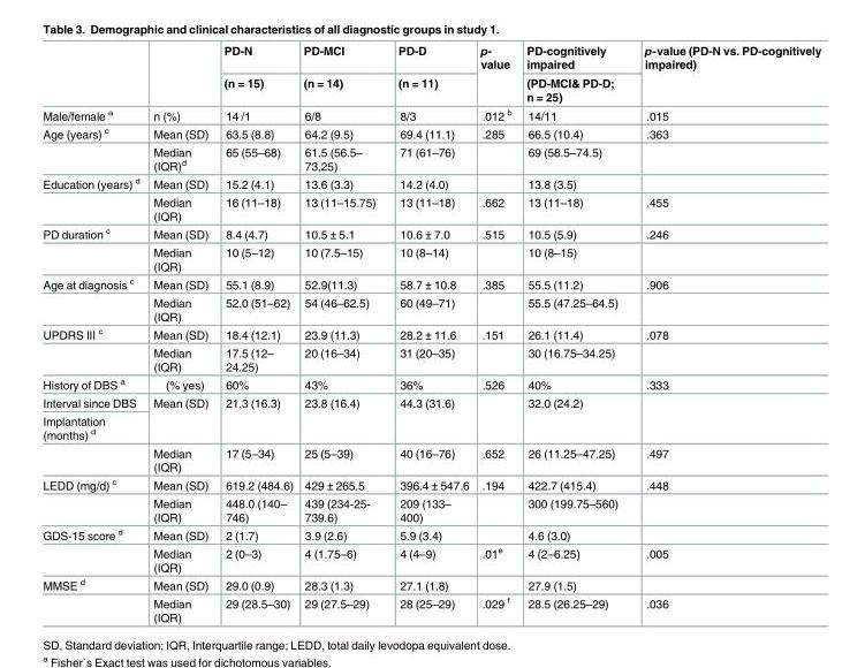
<table><thead><tr><td rowspan="2"></td><td rowspan="2"></td><td rowspan="2">PD-N (n = 15)</td><td rowspan="2">PD-MCI (n = 14)</td><td rowspan="2">PD-D (n = 11)</td><td rowspan="2">p- value</td><td rowspan="2">PD-cognitively impaired (PD-MCI&amp; PD-D; n = 25)</td><td rowspan="2">p-value (PD-N vs. PD-cognitively impaired)</td></tr><tr></tr></thead><tbody><tr><td>Male/female <sup>a</sup></td><td>n (%)</td><td>14 /1</td><td>6/8</td><td>8/3</td><td>.012 <sup>b</sup></td><td>14/11</td><td>.015</td></tr><tr><td rowspan="2">Age (years) <sup>c</sup></td><td>Mean (SD)</td><td>63.5 (8.8)</td><td>64.2 (9.5)</td><td>69.4 (11.1)</td><td>.285</td><td>66.5 (10.4)</td><td>.363</td></tr><tr><td>Median (IQR)<sup>d</sup></td><td>65 (55–68)</td><td>61.5 (56.5– 73,25)</td><td>71 (61–76)</td><td></td><td>69 (58.5–74.5)</td><td></td></tr><tr><td rowspan="2">Education (years) <sup>d</sup></td><td>Mean (SD)</td><td>15.2 (4.1)</td><td>13.6 (3.3)</td><td>14.2 (4.0)</td><td></td><td>13.8 (3.5)</td><td></td></tr><tr><td>Median (IQR)</td><td>16 (11–18)</td><td>13 (11–15.75)</td><td>13 (11–18)</td><td>.662</td><td>13 (11–18)</td><td>.455</td></tr><tr><td rowspan="2">PD duration <sup>c</sup></td><td>Mean (SD)</td><td>8.4 (4.7)</td><td>10.5 ± 5.1</td><td>10.6 ± 7.0</td><td>.515</td><td>10.5 (5.9)</td><td>.246</td></tr><tr><td>Median (IQR)</td><td>10 (5–12)</td><td>10 (7.5–15)</td><td>10 (8–14)</td><td></td><td>10 (8–15)</td><td></td></tr><tr><td rowspan="2">Age at diagnosis <sup>c</sup></td><td>Mean (SD)</td><td>55.1 (8.9)</td><td>52.9(11.3)</td><td>58.7 ± 10.8</td><td>.385</td><td>55.5 (11.2)</td><td>.906</td></tr><tr><td>Median (IQR)</td><td>52.0 (51–62)</td><td>54 (46–62.5)</td><td>60 (49–71)</td><td></td><td>55.5 (47.25–64.5)</td><td></td></tr><tr><td rowspan="2">UPDRS III <sup>c</sup></td><td>Mean (SD)</td><td>18.4 (12.1)</td><td>23.9 (11.3)</td><td>28.2 ± 11.6</td><td>.151</td><td>26.1 (11.4)</td><td>.078</td></tr><tr><td>Median (IQR)</td><td>17.5 (12– 24.25)</td><td>20 (16–34)</td><td>31 (20–35)</td><td></td><td>30 (16.75–34.25)</td><td></td></tr><tr><td>History of DBS <sup>a</sup></td><td>(% yes)</td><td>60%</td><td>43%</td><td>36%</td><td>.526</td><td>40%</td><td>.333</td></tr><tr><td>Interval since DBS</td><td rowspan="2">Mean (SD)</td><td rowspan="2">21.3 (16.3)</td><td rowspan="2">23.8 (16.4)</td><td rowspan="2">44.3 (31.6)</td><td rowspan="2"></td><td rowspan="2">32.0 (24.2)</td><td rowspan="2"></td></tr><tr><td rowspan="2">Implantation (months) <sup>d</sup></td></tr><tr><td>Median (IQR)</td><td>17 (5–34)</td><td>25 (5–39)</td><td>40 (16–76)</td><td>.652</td><td>26 (11.25–47.25)</td><td>.497</td></tr><tr><td rowspan="2">LEDD (mg/d) <sup>c</sup></td><td>Mean (SD)</td><td>619.2 (484.6)</td><td>429 ± 265.5</td><td>396.4 ± 547.6</td><td>.194</td><td>422.7 (415.4)</td><td>.448</td></tr><tr><td>Median (IQR)</td><td>448.0 (140– 746)</td><td>439 (234-25- 739.6)</td><td>209 (133– 400)</td><td></td><td>300 (199.75–560)</td><td></td></tr><tr><td rowspan="2">GDS-15 score <sup>d</sup></td><td>Mean (SD)</td><td>2 (1.7)</td><td>3.9 (2.6)</td><td>5.9 (3.4)</td><td></td><td>4.6 (3.0)</td><td></td></tr><tr><td>Median (IQR)</td><td>2 (0–3)</td><td>4 (1.75–6)</td><td>4 (4–9)</td><td>.01<sup>e</sup></td><td>4 (2–6.25)</td><td>.005</td></tr><tr><td rowspan="2">MMSE <sup>d</sup></td><td>Mean (SD)</td><td>29.0 (0.9)</td><td>28.3 (1.3)</td><td>27.1 (1.8)</td><td></td><td>27.9 (1.5)</td><td></td></tr><tr><td>Median (IQR)</td><td>29 (28.5–30)</td><td>29 (27.5–29)</td><td>28 (25–29)</td><td>.029 <sup>f</sup></td><td>28.5 (26.25–29)</td><td>.036</td></tr></tbody></table>